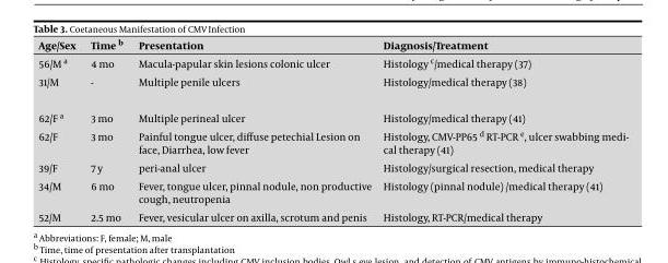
<table><thead><tr><td>Age/Sex</td><td>Time b</td><td>Presentation</td><td>Diagnosis/Treatment</td></tr></thead><tbody><tr><td>56/M a</td><td>4 mo</td><td>Macula-papular skin lesions colonic ulcer</td><td>Histology c/medical therapy (37)</td></tr><tr><td>31/M</td><td>-</td><td>Multiple penile ulcers</td><td>Histology/medical therapy (38)</td></tr><tr><td>62/F a</td><td>3 mo</td><td>Multiple perineal ulcer</td><td>Histology/medical therapy (41)</td></tr><tr><td>62/F</td><td>3 mo</td><td>Painful tongue ulcer, diffuse petechial Lesion on face, Diarrhea, low fever</td><td>Histology, CMV-PP65 d RT-PCR e, ulcer swabbing medi- cal therapy (41)</td></tr><tr><td>39/F</td><td>7 y</td><td>peri-anal ulcer</td><td>Histology/surgical resection, medical therapy</td></tr><tr><td>34/M</td><td>6 mo</td><td>Fever, tongue ulcer, pinnal nodule, non productive cough, neutropenia</td><td>Histology (pinnal nodule) /medical therapy (41)</td></tr><tr><td>52/M</td><td>2.5 mo</td><td>Fever, vesicular ulcer on axilla, scrotum and penis</td><td>Histology, RT-PCR/medical therapy</td></tr></tbody></table>